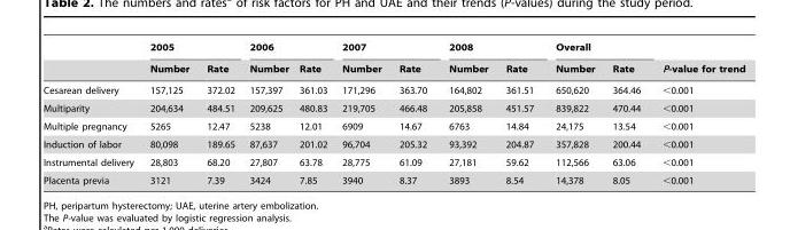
<table><thead><tr><td rowspan="2"></td><td colspan="2">2005</td><td colspan="2">2006</td><td colspan="2">2007</td><td colspan="2">2008</td><td colspan="2">Overall</td><td rowspan="2">P-value for trend</td></tr><tr><td>Number</td><td>Rate</td><td>Number</td><td>Rate</td><td>Number</td><td>Rate</td><td>Number</td><td>Rate</td><td>Number</td><td>Rate</td></tr></thead><tbody><tr><td>Cesarean delivery</td><td>157,125</td><td>372.02</td><td>157,397</td><td>361.03</td><td>171,296</td><td>363.70</td><td>164,802</td><td>361.51</td><td>650,620</td><td>364.46</td><td>&lt;0.001</td></tr><tr><td>Multiparity</td><td>204,634</td><td>484.51</td><td>209,625</td><td>480.83</td><td>219,705</td><td>466.48</td><td>205,858</td><td>451.57</td><td>839,822</td><td>470.44</td><td>&lt;0.001</td></tr><tr><td>Multiple pregnancy</td><td>5265</td><td>12.47</td><td>5238</td><td>12.01</td><td>6909</td><td>14.67</td><td>6763</td><td>14.84</td><td>24,175</td><td>13.54</td><td>&lt;0.001</td></tr><tr><td>Induction of labor</td><td>80,098</td><td>189.65</td><td>87,637</td><td>201.02</td><td>96,704</td><td>205.32</td><td>93,392</td><td>204.87</td><td>357,828</td><td>200.44</td><td>&lt;0.001</td></tr><tr><td>Instrumental delivery</td><td>28,803</td><td>68.20</td><td>27,807</td><td>63.78</td><td>28,775</td><td>61.09</td><td>27,181</td><td>59.62</td><td>112,566</td><td>63.06</td><td>&lt;0.001</td></tr><tr><td>Placenta previa</td><td>3121</td><td>7.39</td><td>3424</td><td>7.85</td><td>3940</td><td>8.37</td><td>3893</td><td>8.54</td><td>14,378</td><td>8.05</td><td>&lt;0.001</td></tr></tbody></table>